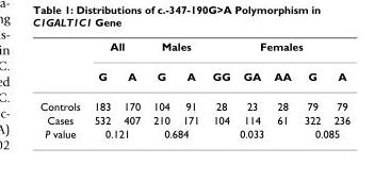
<table><thead><tr><td rowspan="2"></td><td colspan="2">All</td><td colspan="2">Males</td><td colspan="5">Females</td></tr><tr><td>G</td><td>A</td><td>G</td><td>A</td><td>GG</td><td>GA</td><td>AA</td><td>G</td><td>A</td></tr></thead><tbody><tr><td>Controls</td><td>183</td><td>170</td><td>104</td><td>91</td><td>28</td><td>23</td><td>28</td><td>79</td><td>79</td></tr><tr><td>Cases</td><td>532</td><td>407</td><td>210</td><td>171</td><td>104</td><td>114</td><td>61</td><td>322</td><td>236</td></tr><tr><td>P value</td><td colspan="2">0.121</td><td colspan="2">0.684</td><td colspan="3">0.033</td><td colspan="2">0.085</td></tr></tbody></table>